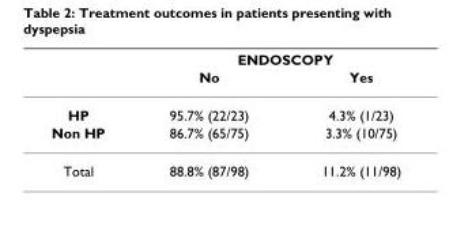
<table><thead><tr><td rowspan="2"></td><td colspan="2">ENDOSCOPY</td></tr><tr><td>No</td><td>Yes</td></tr></thead><tbody><tr><td>HP</td><td>95.7% (22/23)</td><td>4.3% (1/23)</td></tr><tr><td>Non HP</td><td>86.7% (65/75)</td><td>3.3% (10/75)</td></tr><tr><td>Total</td><td>88.8% (87/98)</td><td>11.2% (11/98)</td></tr></tbody></table>